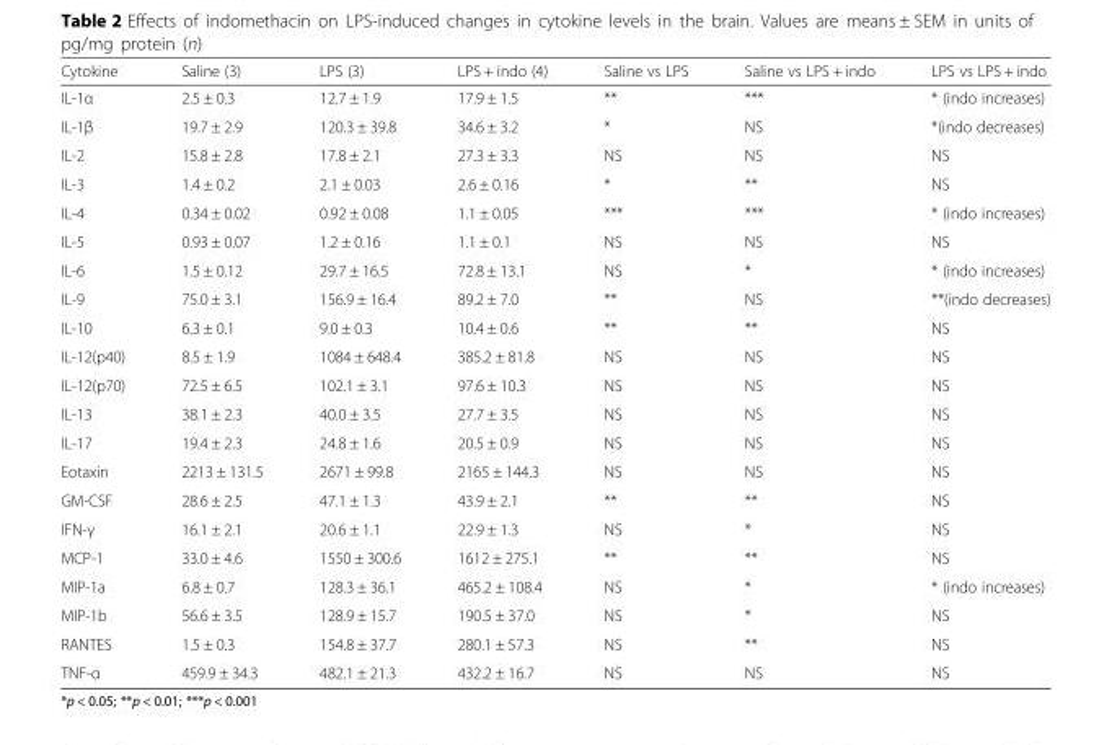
<table><thead><tr><td>Cytokine</td><td>Saline (3)</td><td>LPS (3)</td><td>LPS + indo (4)</td><td>Saline vs LPS</td><td>Saline vs LPS + indo</td><td>LPS vs LPS + indo</td></tr></thead><tbody><tr><td>IL-1α</td><td>2.5 ± 0.3</td><td>12.7 ± 1.9</td><td>17.9 ± 1.5</td><td>**</td><td>***</td><td>* (indo increases)</td></tr><tr><td>IL-1β</td><td>19.7 ± 2.9</td><td>120.3 ± 39.8</td><td>34.6 ± 3.2</td><td>*</td><td>NS</td><td>*(indo decreases)</td></tr><tr><td>IL-2</td><td>15.8 ± 2.8</td><td>17.8 ± 2.1</td><td>27.3 ± 3.3</td><td>NS</td><td>NS</td><td>NS</td></tr><tr><td>IL-3</td><td>1.4 ± 0.2</td><td>2.1 ± 0.03</td><td>2.6 ± 0.16</td><td>*</td><td>**</td><td>NS</td></tr><tr><td>IL-4</td><td>0.34 ± 0.02</td><td>0.92 ± 0.08</td><td>1.1 ± 0.05</td><td>***</td><td>***</td><td>* (indo increases)</td></tr><tr><td>IL-5</td><td>0.93 ± 0.07</td><td>1.2 ± 0.16</td><td>1.1 ± 0.1</td><td>NS</td><td>NS</td><td>NS</td></tr><tr><td>IL-6</td><td>1.5 ± 0.12</td><td>29.7 ± 16.5</td><td>72.8 ± 13.1</td><td>NS</td><td>*</td><td>* (indo increases)</td></tr><tr><td>IL-9</td><td>75.0 ± 3.1</td><td>156.9 ± 16.4</td><td>89.2 ± 7.0</td><td>**</td><td>NS</td><td>**(indo decreases)</td></tr><tr><td>IL-10</td><td>6.3 ± 0.1</td><td>9.0 ± 0.3</td><td>10.4 ± 0.6</td><td>**</td><td>**</td><td>NS</td></tr><tr><td>IL-12(p40)</td><td>8.5 ± 1.9</td><td>1084 ± 648.4</td><td>385.2 ± 81.8</td><td>NS</td><td>NS</td><td>NS</td></tr><tr><td>IL-12(p70)</td><td>72.5 ± 6.5</td><td>102.1 ± 3.1</td><td>97.6 ± 10.3</td><td>NS</td><td>NS</td><td>NS</td></tr><tr><td>IL-13</td><td>38.1 ± 2.3</td><td>40.0 ± 3.5</td><td>27.7 ± 3.5</td><td>NS</td><td>NS</td><td>NS</td></tr><tr><td>IL-17</td><td>19.4 ± 2.3</td><td>24.8 ± 1.6</td><td>20.5 ± 0.9</td><td>NS</td><td>NS</td><td>NS</td></tr><tr><td>Eotaxin</td><td>2213 ± 131.5</td><td>2671 ± 99.8</td><td>2165 ± 144.3</td><td>NS</td><td>NS</td><td>NS</td></tr><tr><td>GM-CSF</td><td>28.6 ± 2.5</td><td>47.1 ± 1.3</td><td>43.9 ± 2.1</td><td>**</td><td>**</td><td>NS</td></tr><tr><td>IFN-γ</td><td>16.1 ± 2.1</td><td>20.6 ± 1.1</td><td>22.9 ± 1.3</td><td>NS</td><td>*</td><td>NS</td></tr><tr><td>MCP-1</td><td>33.0 ± 4.6</td><td>1550 ± 300.6</td><td>1612 ± 275.1</td><td>**</td><td>**</td><td>NS</td></tr><tr><td>MIP-1a</td><td>6.8 ± 0.7</td><td>128.3 ± 36.1</td><td>465.2 ± 108.4</td><td>NS</td><td>*</td><td>* (indo increases)</td></tr><tr><td>MIP-1b</td><td>56.6 ± 3.5</td><td>128.9 ± 15.7</td><td>190.5 ± 37.0</td><td>NS</td><td>*</td><td>NS</td></tr><tr><td>RANTES</td><td>1.5 ± 0.3</td><td>154.8 ± 37.7</td><td>280.1 ± 57.3</td><td>NS</td><td>**</td><td>NS</td></tr><tr><td>TNF-α</td><td>459.9 ± 34.3</td><td>482.1 ± 21.3</td><td>432.2 ± 16.7</td><td>NS</td><td>NS</td><td>NS</td></tr></tbody></table>